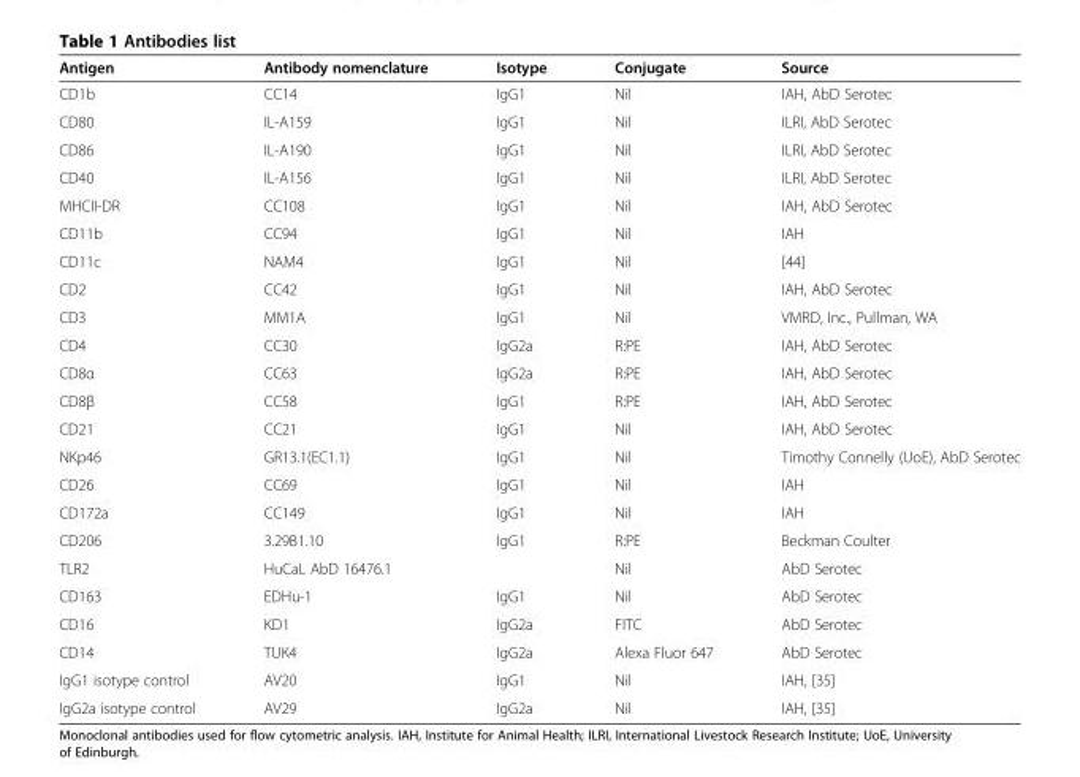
<table><thead><tr><td>Antigen</td><td>Antibody nomenclature</td><td>Isotype</td><td>Conjugate</td><td>Source</td></tr></thead><tbody><tr><td>CD1b</td><td>CC14</td><td>IgG1</td><td>Nil</td><td>IAH, AbD Serotec</td></tr><tr><td>CD80</td><td>IL-A159</td><td>IgG1</td><td>Nil</td><td>ILRI, AbD Serotec</td></tr><tr><td>CD86</td><td>IL-A190</td><td>IgG1</td><td>Nil</td><td>ILRI, AbD Serotec</td></tr><tr><td>CD40</td><td>IL-A156</td><td>IgG1</td><td>Nil</td><td>ILRI, AbD Serotec</td></tr><tr><td>MHCII-DR</td><td>CC108</td><td>IgG1</td><td>Nil</td><td>IAH, AbD Serotec</td></tr><tr><td>CD11b</td><td>CC94</td><td>IgG1</td><td>Nil</td><td>IAH</td></tr><tr><td>CD11c</td><td>NAM4</td><td>IgG1</td><td>Nil</td><td>[44]</td></tr><tr><td>CD2</td><td>CC42</td><td>IgG1</td><td>Nil</td><td>IAH, AbD Serotec</td></tr><tr><td>CD3</td><td>MM1A</td><td>IgG1</td><td>Nil</td><td>VMRD, Inc., Pullman, WA</td></tr><tr><td>CD4</td><td>CC30</td><td>IgG2a</td><td>R:PE</td><td>IAH, AbD Serotec</td></tr><tr><td>CD8α</td><td>CC63</td><td>IgG2a</td><td>R:PE</td><td>IAH, AbD Serotec</td></tr><tr><td>CD8β</td><td>CC58</td><td>IgG1</td><td>R:PE</td><td>IAH, AbD Serotec</td></tr><tr><td>CD21</td><td>CC21</td><td>IgG1</td><td>Nil</td><td>IAH, AbD Serotec</td></tr><tr><td>NKp46</td><td>GR13.1(EC1.1)</td><td>IgG1</td><td>Nil</td><td>Timothy Connelly (UoE), AbD Serotec</td></tr><tr><td>CD26</td><td>CC69</td><td>IgG1</td><td>Nil</td><td>IAH</td></tr><tr><td>CD172a</td><td>CC149</td><td>IgG1</td><td>Nil</td><td>IAH</td></tr><tr><td>CD206</td><td>3.29B1.10</td><td>IgG1</td><td>R:PE</td><td>Beckman Coulter</td></tr><tr><td>TLR2</td><td>HuCaL AbD 16476.1</td><td></td><td>Nil</td><td>AbD Serotec</td></tr><tr><td>CD163</td><td>EDHu-1</td><td>IgG1</td><td>Nil</td><td>AbD Serotec</td></tr><tr><td>CD16</td><td>KD1</td><td>IgG2a</td><td>FITC</td><td>AbD Serotec</td></tr><tr><td>CD14</td><td>TUK4</td><td>IgG2a</td><td>Alexa Fluor 647</td><td>AbD Serotec</td></tr><tr><td>IgG1 isotype control</td><td>AV20</td><td>IgG1</td><td>Nil</td><td>IAH, [35]</td></tr><tr><td>IgG2a isotype control</td><td>AV29</td><td>IgG2a</td><td>Nil</td><td>IAH, [35]</td></tr></tbody></table>